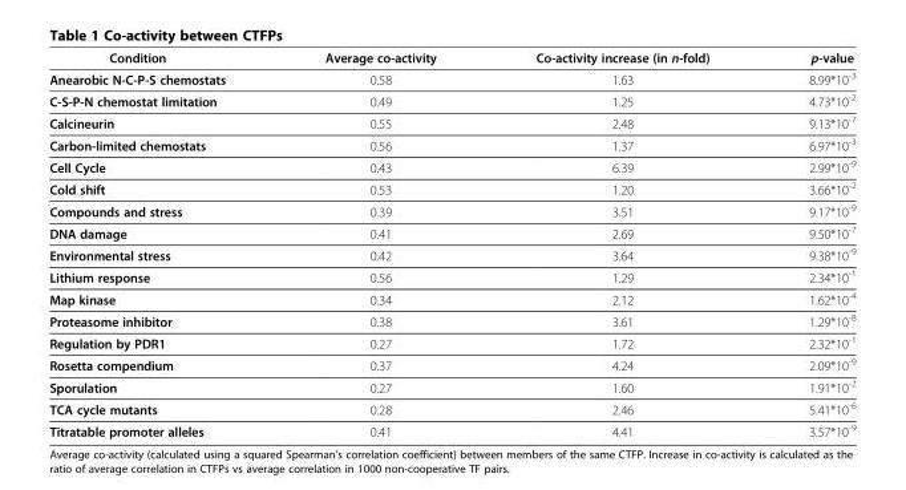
<table><thead><tr><td>Condition</td><td>Average co-activity</td><td>Co-activity increase (in n-fold)</td><td>p-value</td></tr></thead><tbody><tr><td>Anearobic N-C-P-S chemostats</td><td>0.58</td><td>1.63</td><td>8.99*10<sup>-3</sup></td></tr><tr><td>C-S-P-N chemostat limitation</td><td>0.49</td><td>1.25</td><td>4.73*10<sup>-2</sup></td></tr><tr><td>Calcineurin</td><td>0.55</td><td>2.48</td><td>9.13*10<sup>-7</sup></td></tr><tr><td>Carbon-limited chemostats</td><td>0.56</td><td>1.37</td><td>6.97*10<sup>-3</sup></td></tr><tr><td>Cell Cycle</td><td>0.43</td><td>6.39</td><td>2.99*10<sup>-9</sup></td></tr><tr><td>Cold shift</td><td>0.53</td><td>1.20</td><td>3.66*10<sup>-2</sup></td></tr><tr><td>Compounds and stress</td><td>0.39</td><td>3.51</td><td>9.17*10<sup>-9</sup></td></tr><tr><td>DNA damage</td><td>0.41</td><td>2.69</td><td>9.50*10<sup>-7</sup></td></tr><tr><td>Environmental stress</td><td>0.42</td><td>3.64</td><td>9.38*10<sup>-9</sup></td></tr><tr><td>Lithium response</td><td>0.56</td><td>1.29</td><td>2.34*10<sup>-1</sup></td></tr><tr><td>Map kinase</td><td>0.34</td><td>2.12</td><td>1.62*10<sup>-4</sup></td></tr><tr><td>Proteasome inhibitor</td><td>0.38</td><td>3.61</td><td>1.29*10<sup>-8</sup></td></tr><tr><td>Regulation by PDR1</td><td>0.27</td><td>1.72</td><td>2.32*10<sup>-1</sup></td></tr><tr><td>Rosetta compendium</td><td>0.37</td><td>4.24</td><td>2.09*10<sup>-9</sup></td></tr><tr><td>Sporulation</td><td>0.27</td><td>1.60</td><td>1.91*10<sup>-2</sup></td></tr><tr><td>TCA cycle mutants</td><td>0.28</td><td>2.46</td><td>5.41*10<sup>-6</sup></td></tr><tr><td>Titratable promoter alleles</td><td>0.41</td><td>4.41</td><td>3.57*10<sup>-9</sup></td></tr></tbody></table>